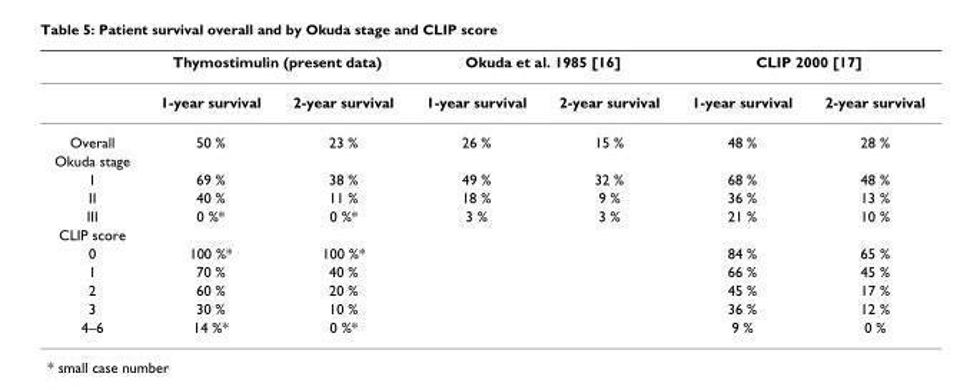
<table><thead><tr><td rowspan="2"></td><td colspan="2">Thymostimulin (present data)</td><td colspan="2">Okuda et al. 1985 [16]</td><td colspan="2">CLIP 2000 [17]</td></tr><tr><td>1-year survival</td><td>2-year survival</td><td>1-year survival</td><td>2-year survival</td><td>1-year survival</td><td>2-year survival</td></tr></thead><tbody><tr><td>Overall</td><td>50 %</td><td>23 %</td><td>26 %</td><td>15 %</td><td>48 %</td><td>28 %</td></tr><tr><td colspan="7">Okuda stage</td></tr><tr><td>I</td><td>69 %</td><td>38 %</td><td>49 %</td><td>32 %</td><td>68 %</td><td>48 %</td></tr><tr><td>II</td><td>40 %</td><td>11 %</td><td>18 %</td><td>9 %</td><td>36 %</td><td>13 %</td></tr><tr><td>III</td><td>0 %*</td><td>0 %*</td><td>3 %</td><td>3 %</td><td>21 %</td><td>10 %</td></tr><tr><td colspan="7">CLIP score</td></tr><tr><td>0</td><td>100 %*</td><td>100 %*</td><td></td><td></td><td>84 %</td><td>65 %</td></tr><tr><td>1</td><td>70 %</td><td>40 %</td><td></td><td></td><td>66 %</td><td>45 %</td></tr><tr><td>2</td><td>60 %</td><td>20 %</td><td></td><td></td><td>45 %</td><td>17 %</td></tr><tr><td>3</td><td>30 %</td><td>10 %</td><td></td><td></td><td>36 %</td><td>12 %</td></tr><tr><td>4–6</td><td>14 %*</td><td>0 %*</td><td></td><td></td><td>9 %</td><td>0 %</td></tr></tbody></table>